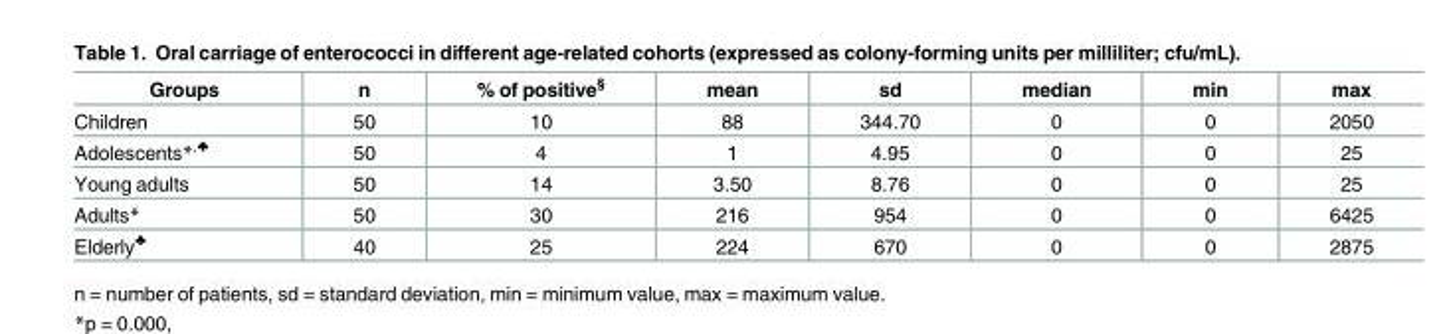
<table><thead><tr><td>Groups</td><td>n</td><td>% of positive<sup>§</sup></td><td>mean</td><td>sd</td><td>median</td><td>min</td><td>max</td></tr></thead><tbody><tr><td>Children</td><td>50</td><td>10</td><td>88</td><td>344.70</td><td>0</td><td>0</td><td>2050</td></tr><tr><td>Adolescents*<sup>,♣</sup></td><td>50</td><td>4</td><td>1</td><td>4.95</td><td>0</td><td>0</td><td>25</td></tr><tr><td>Young adults</td><td>50</td><td>14</td><td>3.50</td><td>8.76</td><td>0</td><td>0</td><td>25</td></tr><tr><td>Adults*</td><td>50</td><td>30</td><td>216</td><td>954</td><td>0</td><td>0</td><td>6425</td></tr><tr><td>Elderly<sup>♣</sup></td><td>40</td><td>25</td><td>224</td><td>670</td><td>0</td><td>0</td><td>2875</td></tr></tbody></table>